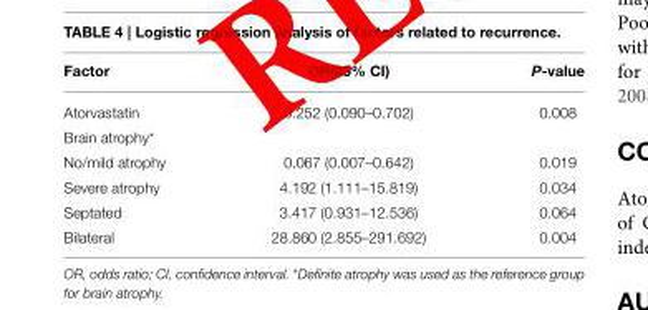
<table><thead><tr><td>Factor</td><td>OR(95% CI)</td><td>P-value</td></tr></thead><tbody><tr><td>Atorvastatin</td><td>0.252 (0.090–0.702)</td><td>0.008</td></tr><tr><td colspan="3">Brain atrophy*</td></tr><tr><td>No/mild atrophy</td><td>0.067 (0.007–0.642)</td><td>0.019</td></tr><tr><td>Severe atrophy</td><td>4.192 (1.111–15.819)</td><td>0.034</td></tr><tr><td>Septated</td><td>3.417 (0.931–12.536)</td><td>0.064</td></tr><tr><td>Bilateral</td><td>28.860 (2.855–291.692)</td><td>0.004</td></tr></tbody></table>